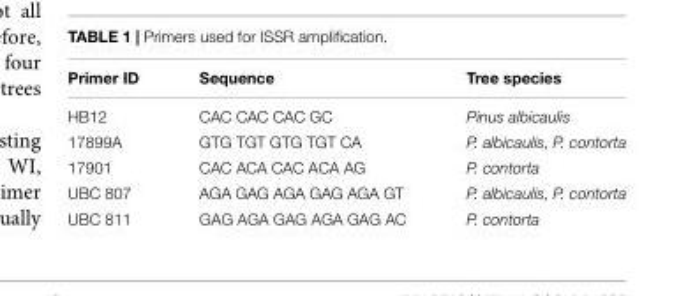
<table><thead><tr><td>Primer ID</td><td>Sequence</td><td>Tree species</td></tr></thead><tbody><tr><td>HB12</td><td>CAC CAC CAC GC</td><td>Pinus albicaulis</td></tr><tr><td>17899A</td><td>GTG TGT GTG TGT CA</td><td>P. albicaulis, P. contorta</td></tr><tr><td>17901</td><td>CAC ACA CAC ACA AG</td><td>P. contorta</td></tr><tr><td>UBC 807</td><td>AGA GAG AGA GAG AGA GT</td><td>P. albicaulis, P. contorta</td></tr><tr><td>UBC 811</td><td>GAG AGA GAG AGA GAG AC</td><td>P. contorta</td></tr></tbody></table>